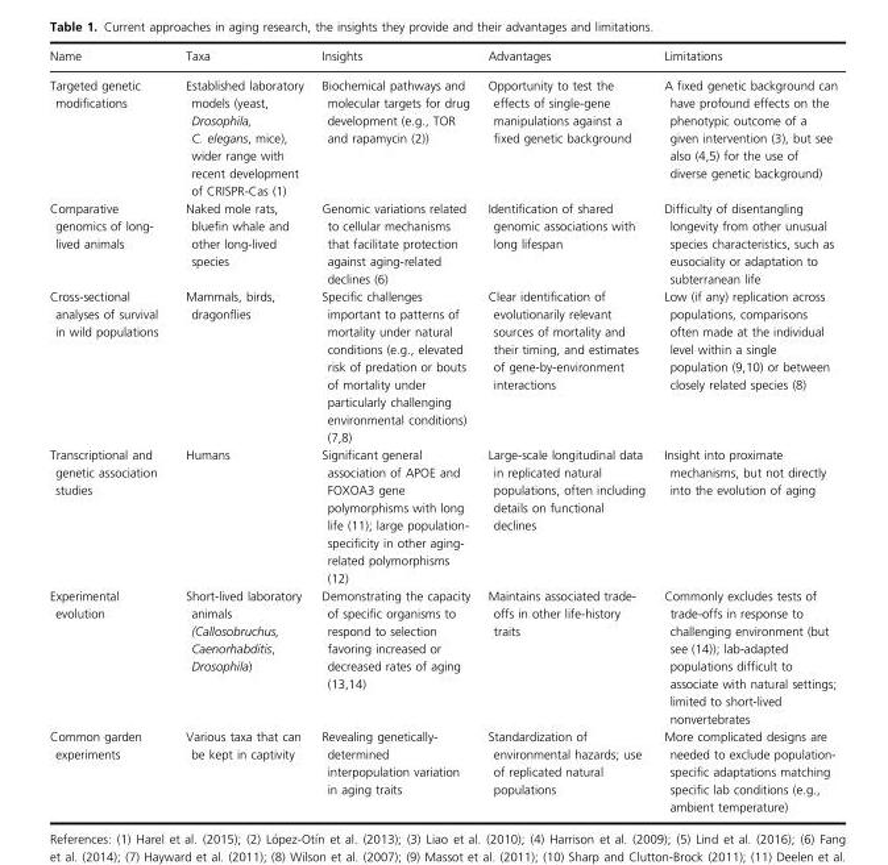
<table><thead><tr><td>Name</td><td>Taxa</td><td>Insights</td><td>Advantages</td><td>Limitations</td></tr></thead><tbody><tr><td>Targeted genetic modifications</td><td>Established laboratory models (yeast, Drosophila, C. elegans, mice), wider range with recent development of CRISPR-Cas (1)</td><td>Biochemical pathways and molecular targets for drug development (e.g., TOR and rapamycin (2))</td><td>Opportunity to test the effects of single-gene manipulations against a fixed genetic background</td><td>A fixed genetic background can have profound effects on the phenotypic outcome of a given intervention (3), but see also (4,5) for the use of diverse genetic background)</td></tr><tr><td>Comparative genomics of long- lived animals</td><td>Naked mole rats, bluefin whale and other long-lived species</td><td>Genomic variations related to cellular mechanisms that facilitate protection against aging-related declines (6)</td><td>Identification of shared genomic associations with long lifespan</td><td>Difficulty of disentangling longevity from other unusual species characteristics, such as eusociality or adaptation to subterranean life</td></tr><tr><td>Cross-sectional analyses of survival in wild populations</td><td>Mammals, birds, dragonflies</td><td>Specific challenges important to patterns of mortality under natural conditions (e.g., elevated risk of predation or bouts of mortality under particularly challenging environmental conditions) (7,8)</td><td>Clear identification of evolutionarily relevant sources of mortality and their timing, and estimates of gene-by-environment interactions</td><td>Low (if any) replication across populations, comparisons often made at the individual level within a single population (9,10) or between closely related species (8)</td></tr><tr><td>Transcriptional and genetic association studies</td><td>Humans</td><td>Significant general association of APOE and FOXOA3 gene polymorphisms with long life (11); large population- specificity in other aging- related polymorphisms (12)</td><td>Large-scale longitudinal data in replicated natural populations, often including details on functional declines</td><td>Insight into proximate mechanisms, but not directly into the evolution of aging</td></tr><tr><td>Experimental evolution</td><td>Short-lived laboratory animals (Callosobruchus, Caenorhabditis, Drosophila)</td><td>Demonstrating the capacity of specific organisms to respond to selection favoring increased or decreased rates of aging (13,14)</td><td>Maintains associated trade- offs in other life-history traits</td><td>Commonly excludes tests of trade-offs in response to challenging environment (but see (14)); lab-adapted populations difficult to associate with natural settings; limited to short-lived nonvertebrates</td></tr><tr><td>Common garden experiments</td><td>Various taxa that can be kept in captivity</td><td>Revealing genetically- determined interpopulation variation in aging traits</td><td>Standardization of environmental hazards; use of replicated natural populations</td><td>More complicated designs are needed to exclude population- specific adaptations matching specific lab conditions (e.g., ambient temperature)</td></tr></tbody></table>